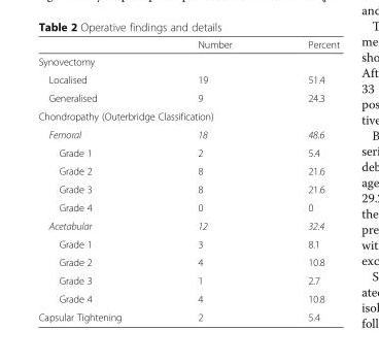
<table><thead><tr><td></td><td>Number</td><td>Percent</td></tr></thead><tbody><tr><td colspan="3">Synovectomy</td></tr><tr><td>Localised</td><td>19</td><td>51.4</td></tr><tr><td>Generalised</td><td>9</td><td>24.3</td></tr><tr><td colspan="3">Chondropathy (Outerbridge Classification)</td></tr><tr><td>Femoral</td><td>18</td><td>48.6</td></tr><tr><td>Grade 1</td><td>2</td><td>5.4</td></tr><tr><td>Grade 2</td><td>8</td><td>21.6</td></tr><tr><td>Grade 3</td><td>8</td><td>21.6</td></tr><tr><td>Grade 4</td><td>0</td><td>0</td></tr><tr><td>Acetabular</td><td>12</td><td>32.4</td></tr><tr><td>Grade 1</td><td>3</td><td>8.1</td></tr><tr><td>Grade 2</td><td>4</td><td>10.8</td></tr><tr><td>Grade 3</td><td>1</td><td>2.7</td></tr><tr><td>Grade 4</td><td>4</td><td>10.8</td></tr><tr><td>Capsular Tightening</td><td>2</td><td>5.4</td></tr></tbody></table>